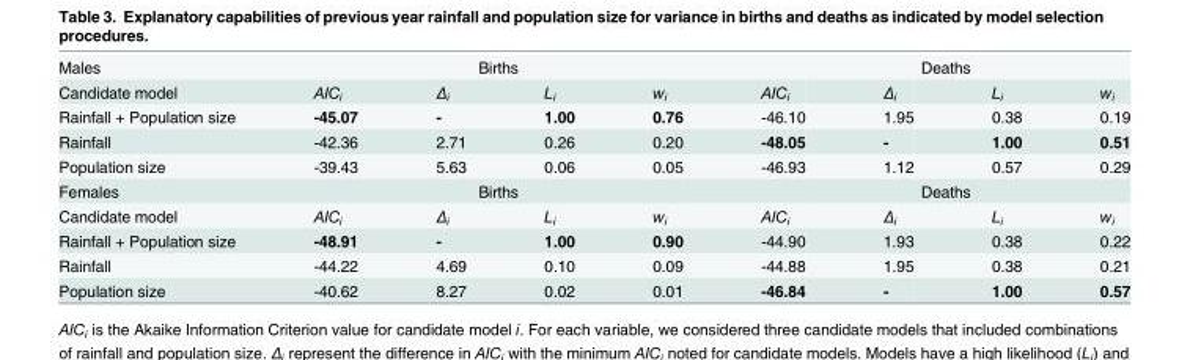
<table><tbody><tr><td>Males</td><td colspan="4">Births</td><td colspan="4">Deaths</td></tr><tr><td>Candidate model</td><td>AIC<sub>i</sub></td><td>Δi</td><td>L<sub>i</sub></td><td>w<sub>i</sub></td><td>AIC<sub>i</sub></td><td>Δi</td><td>L<sub>i</sub></td><td>w<sub>i</sub></td></tr><tr><td>Rainfall + Population size</td><td>-45.07</td><td>-</td><td>1.00</td><td>0.76</td><td>-46.10</td><td>1.95</td><td>0.38</td><td>0.19</td></tr><tr><td>Rainfall</td><td>-42.36</td><td>2.71</td><td>0.26</td><td>0.20</td><td>-48.05</td><td>-</td><td>1.00</td><td>0.51</td></tr><tr><td>Population size</td><td>-39.43</td><td>5.63</td><td>0.06</td><td>0.05</td><td>-46.93</td><td>1.12</td><td>0.57</td><td>0.29</td></tr><tr><td>Females</td><td colspan="4">Births</td><td colspan="4">Deaths</td></tr><tr><td>Candidate model</td><td>AIC<sub>i</sub></td><td>Δi</td><td>L<sub>i</sub></td><td>w<sub>i</sub></td><td>AIC<sub>i</sub></td><td>Δi</td><td>L<sub>i</sub></td><td>w<sub>i</sub></td></tr><tr><td>Rainfall + Population size</td><td>-48.91</td><td>-</td><td>1.00</td><td>0.90</td><td>-44.90</td><td>1.93</td><td>0.38</td><td>0.22</td></tr><tr><td>Rainfall</td><td>-44.22</td><td>4.69</td><td>0.10</td><td>0.09</td><td>-44.88</td><td>1.95</td><td>0.38</td><td>0.21</td></tr><tr><td>Population size</td><td>-40.62</td><td>8.27</td><td>0.02</td><td>0.01</td><td>-46.84</td><td>-</td><td>1.00</td><td>0.57</td></tr></tbody></table>